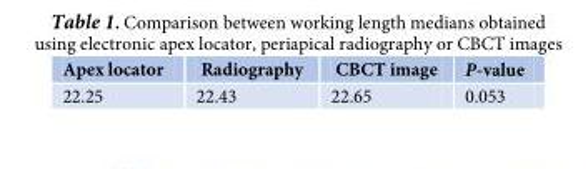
<table><thead><tr><td>Apex locator</td><td>Radiography</td><td>CBCT image</td><td>P-value</td></tr></thead><tbody><tr><td>22.25</td><td>22.43</td><td>22.65</td><td>0.053</td></tr></tbody></table>